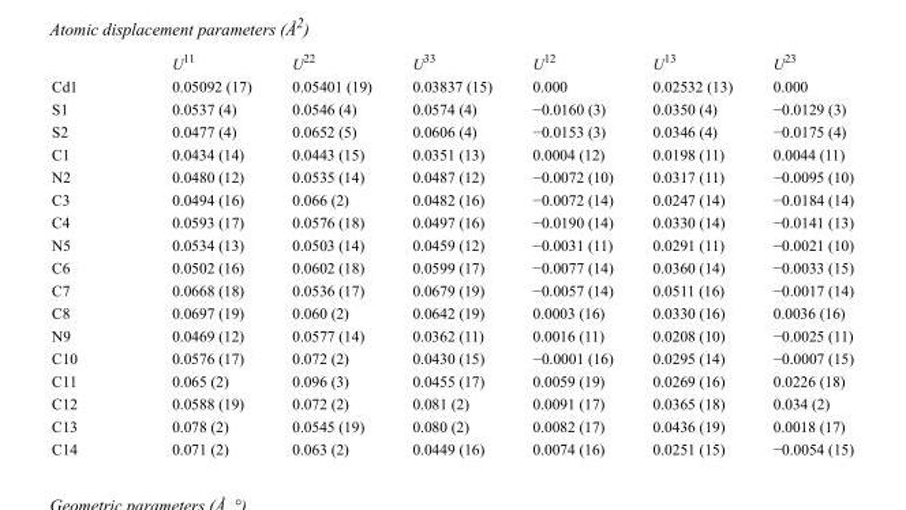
<table><thead><tr><td></td><td>U<sup>11</sup></td><td>U<sup>22</sup></td><td>U<sup>33</sup></td><td>U<sup>12</sup></td><td>U<sup>13</sup></td><td>U<sup>23</sup></td></tr></thead><tbody><tr><td>Cd1</td><td>0.05092 (17)</td><td>0.05401 (19)</td><td>0.03837 (15)</td><td>0.000</td><td>0.02532 (13)</td><td>0.000</td></tr><tr><td>S1</td><td>0.0537 (4)</td><td>0.0546 (4)</td><td>0.0574 (4)</td><td>−0.0160 (3)</td><td>0.0350 (4)</td><td>−0.0129 (3)</td></tr><tr><td>S2</td><td>0.0477 (4)</td><td>0.0652 (5)</td><td>0.0606 (4)</td><td>−0.0153 (3)</td><td>0.0346 (4)</td><td>−0.0175 (4)</td></tr><tr><td>C1</td><td>0.0434 (14)</td><td>0.0443 (15)</td><td>0.0351 (13)</td><td>0.0004 (12)</td><td>0.0198 (11)</td><td>0.0044 (11)</td></tr><tr><td>N2</td><td>0.0480 (12)</td><td>0.0535 (14)</td><td>0.0487 (12)</td><td>−0.0072 (10)</td><td>0.0317 (11)</td><td>−0.0095 (10)</td></tr><tr><td>C3</td><td>0.0494 (16)</td><td>0.066 (2)</td><td>0.0482 (16)</td><td>−0.0072 (14)</td><td>0.0247 (14)</td><td>−0.0184 (14)</td></tr><tr><td>C4</td><td>0.0593 (17)</td><td>0.0576 (18)</td><td>0.0497 (16)</td><td>−0.0190 (14)</td><td>0.0330 (14)</td><td>−0.0141 (13)</td></tr><tr><td>N5</td><td>0.0534 (13)</td><td>0.0503 (14)</td><td>0.0459 (12)</td><td>−0.0031 (11)</td><td>0.0291 (11)</td><td>−0.0021 (10)</td></tr><tr><td>C6</td><td>0.0502 (16)</td><td>0.0602 (18)</td><td>0.0599 (17)</td><td>−0.0077 (14)</td><td>0.0360 (14)</td><td>−0.0033 (15)</td></tr><tr><td>C7</td><td>0.0668 (18)</td><td>0.0536 (17)</td><td>0.0679 (19)</td><td>−0.0057 (14)</td><td>0.0511 (16)</td><td>−0.0017 (14)</td></tr><tr><td>C8</td><td>0.0697 (19)</td><td>0.060 (2)</td><td>0.0642 (19)</td><td>0.0003 (16)</td><td>0.0330 (16)</td><td>0.0036 (16)</td></tr><tr><td>N9</td><td>0.0469 (12)</td><td>0.0577 (14)</td><td>0.0362 (11)</td><td>0.0016 (11)</td><td>0.0208 (10)</td><td>−0.0025 (11)</td></tr><tr><td>C10</td><td>0.0576 (17)</td><td>0.072 (2)</td><td>0.0430 (15)</td><td>−0.0001 (16)</td><td>0.0295 (14)</td><td>−0.0007 (15)</td></tr><tr><td>C11</td><td>0.065 (2)</td><td>0.096 (3)</td><td>0.0455 (17)</td><td>0.0059 (19)</td><td>0.0269 (16)</td><td>0.0226 (18)</td></tr><tr><td>C12</td><td>0.0588 (19)</td><td>0.072 (2)</td><td>0.081 (2)</td><td>0.0091 (17)</td><td>0.0365 (18)</td><td>0.034 (2)</td></tr><tr><td>C13</td><td>0.078 (2)</td><td>0.0545 (19)</td><td>0.080 (2)</td><td>0.0082 (17)</td><td>0.0436 (19)</td><td>0.0018 (17)</td></tr><tr><td>C14</td><td>0.071 (2)</td><td>0.063 (2)</td><td>0.0449 (16)</td><td>0.0074 (16)</td><td>0.0251 (15)</td><td>−0.0054 (15)</td></tr></tbody></table>